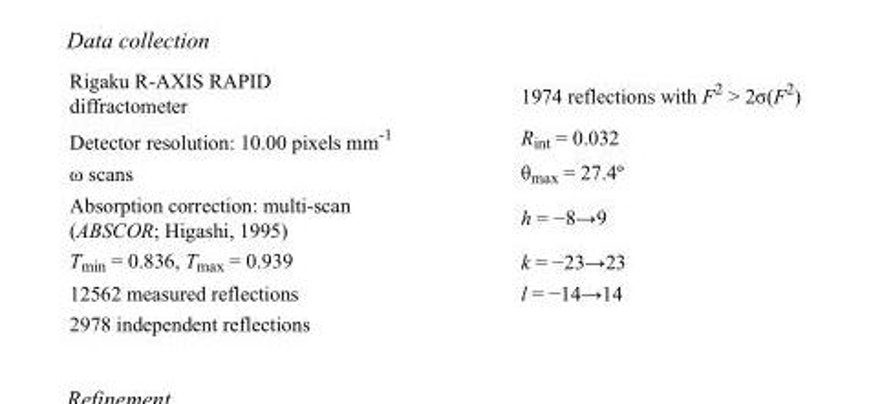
<table><tbody><tr><td>Rigaku R-AXIS RAPID diffractometer</td><td>1974 reflections with F<sup>2</sup> &gt; 2σ(F<sup>2</sup>)</td></tr><tr><td>Detector resolution: 10.00 pixels mm<sup>-1</sup></td><td>R<sub>int</sub> = 0.032</td></tr><tr><td>ω scans</td><td>θmax = 27.4º</td></tr><tr><td>Absorption correction: multi-scan (ABSCOR; Higashi, 1995)</td><td>h = −8→9</td></tr><tr><td>T<sub>min</sub> = 0.836, T<sub>max</sub> = 0.939</td><td>k = −23→23</td></tr><tr><td>12562 measured reflections</td><td>l = −14→14</td></tr><tr><td>2978 independent reflections</td><td></td></tr></tbody></table>